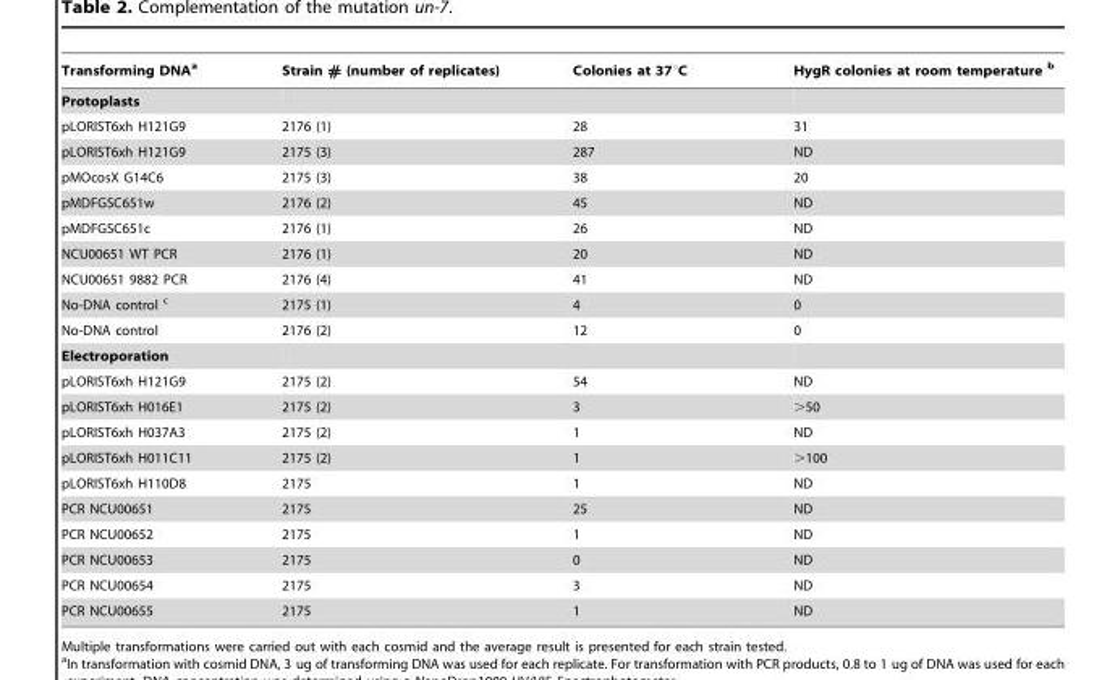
<table><thead><tr><td>Transforming DNA<sup>a</sup></td><td>Strain # (number of replicates)</td><td>Colonies at 37°C</td><td>HygR colonies at room temperature b</td></tr></thead><tbody><tr><td colspan="4">Protoplasts</td></tr><tr><td>pLORIST6xh H121G9</td><td>2176 (1)</td><td>28</td><td>31</td></tr><tr><td>pLORIST6xh H121G9</td><td>2175 (3)</td><td>287</td><td>ND</td></tr><tr><td>pMOcosX G14C6</td><td>2175 (3)</td><td>38</td><td>20</td></tr><tr><td>pMDFGSC651w</td><td>2176 (2)</td><td>45</td><td>ND</td></tr><tr><td>pMDFGSC651c</td><td>2176 (1)</td><td>26</td><td>ND</td></tr><tr><td>NCU00651 WT PCR</td><td>2176 (1)</td><td>20</td><td>ND</td></tr><tr><td>NCU00651 9882 PCR</td><td>2176 (4)</td><td>41</td><td>ND</td></tr><tr><td>No-DNA control c</td><td>2175 (1)</td><td>4</td><td>0</td></tr><tr><td>No-DNA control</td><td>2176 (2)</td><td>12</td><td>0</td></tr><tr><td colspan="4">Electroporation</td></tr><tr><td>pLORIST6xh H121G9</td><td>2175 (2)</td><td>54</td><td>ND</td></tr><tr><td>pLORIST6xh H016E1</td><td>2175 (2)</td><td>3</td><td>&gt;50</td></tr><tr><td>pLORIST6xh H037A3</td><td>2175 (2)</td><td>1</td><td>ND</td></tr><tr><td>pLORIST6xh H011C11</td><td>2175 (2)</td><td>1</td><td>&gt;100</td></tr><tr><td>pLORIST6xh H110D8</td><td>2175</td><td>1</td><td>ND</td></tr><tr><td>PCR NCU00651</td><td>2175</td><td>25</td><td>ND</td></tr><tr><td>PCR NCU00652</td><td>2175</td><td>1</td><td>ND</td></tr><tr><td>PCR NCU00653</td><td>2175</td><td>0</td><td>ND</td></tr><tr><td>PCR NCU00654</td><td>2175</td><td>3</td><td>ND</td></tr><tr><td>PCR NCU00655</td><td>2175</td><td>1</td><td>ND</td></tr></tbody></table>